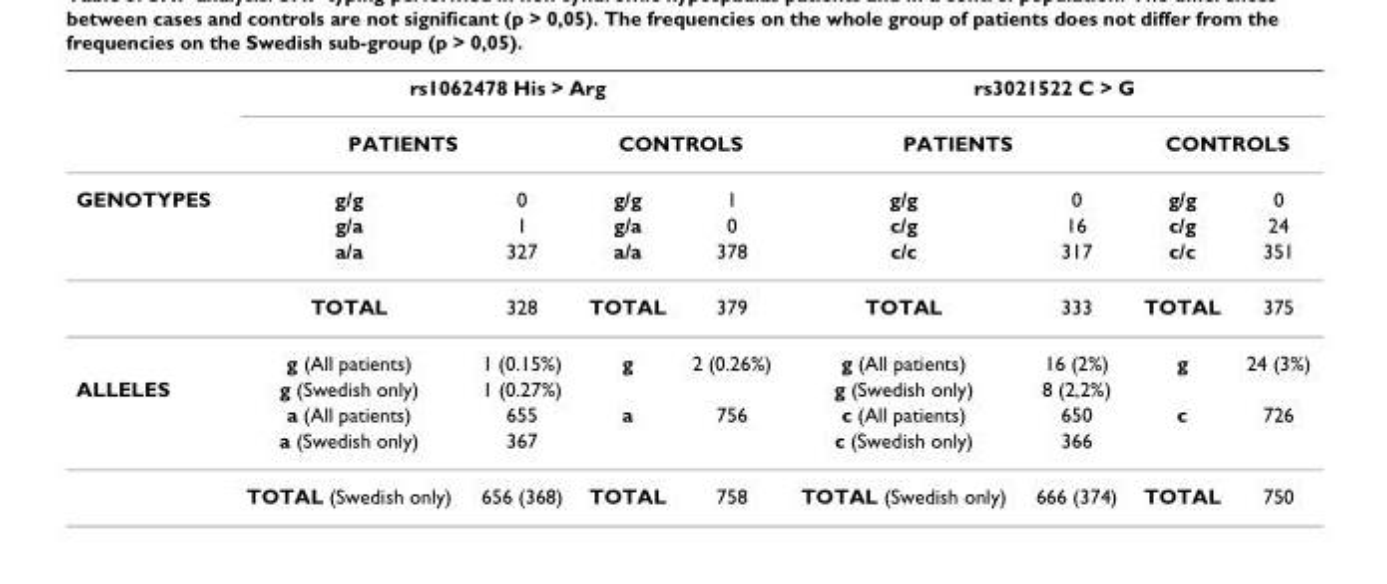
<table><thead><tr><td rowspan="3">GENOTYPES</td><td colspan="4">rs1062478 His &gt; Arg</td><td colspan="4">rs3021522 C &gt; G</td></tr><tr><td colspan="2">PATIENTS</td><td colspan="2">CONTROLS</td><td colspan="2">PATIENTS</td><td colspan="2">CONTROLS</td></tr><tr><td>g/g</td><td>0</td><td>g/g</td><td>1</td><td>g/g</td><td>0</td><td>g/g</td><td>0</td></tr></thead><tbody><tr><td></td><td>g/a</td><td>1</td><td>g/a</td><td>0</td><td>c/g</td><td>16</td><td>c/g</td><td>24</td></tr><tr><td></td><td>a/a</td><td>327</td><td>a/a</td><td>378</td><td>c/c</td><td>317</td><td>c/c</td><td>351</td></tr><tr><td></td><td>TOTAL</td><td>328</td><td>TOTAL</td><td>379</td><td>TOTAL</td><td>333</td><td>TOTAL</td><td>375</td></tr><tr><td></td><td>g (All patients)</td><td>1 (0.15%)</td><td>g</td><td>2 (0.26%)</td><td>g (All patients)</td><td>16 (2%)</td><td>g</td><td>24 (3%)</td></tr><tr><td rowspan="4">ALLELES</td><td>g (Swedish only)</td><td>1 (0.27%)</td><td></td><td></td><td>g (Swedish only)</td><td>8 (2,2%)</td><td></td><td></td></tr><tr><td>a (All patients)</td><td>655</td><td>a</td><td>756</td><td>c (All patients)</td><td>650</td><td>c</td><td>726</td></tr><tr><td>a (Swedish only)</td><td>367</td><td></td><td></td><td>c (Swedish only)</td><td>366</td><td></td><td></td></tr><tr><td>TOTAL (Swedish only)</td><td>656 (368)</td><td>TOTAL</td><td>758</td><td>TOTAL (Swedish only)</td><td>666 (374)</td><td>TOTAL</td><td>750</td></tr></tbody></table>